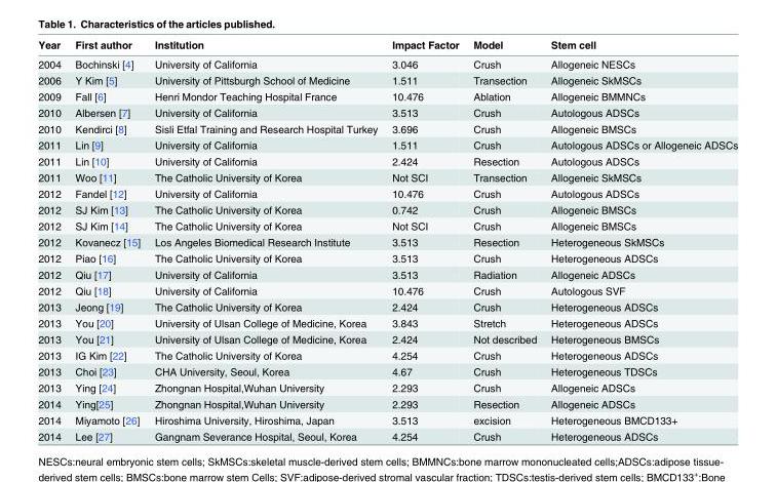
<table><thead><tr><td>Year</td><td>First author</td><td>Institution</td><td>Impact Factor</td><td>Model</td><td>Stem cell</td></tr></thead><tbody><tr><td>2004</td><td>Bochinski [4]</td><td>University of California</td><td>3.046</td><td>Crush</td><td>Allogeneic NESCs</td></tr><tr><td>2006</td><td>Y Kim [5]</td><td>University of Pittsburgh School of Medicine</td><td>1.511</td><td>Transection</td><td>Allogeneic SkMSCs</td></tr><tr><td>2009</td><td>Fall [6]</td><td>Henri Mondor Teaching Hospital France</td><td>10.476</td><td>Ablation</td><td>Allogeneic BMMNCs</td></tr><tr><td>2010</td><td>Albersen [7]</td><td>University of California</td><td>3.513</td><td>Crush</td><td>Autologous ADSCs</td></tr><tr><td>2010</td><td>Kendirci [8]</td><td>Sisli Etfal Training and Research Hospital Turkey</td><td>3.696</td><td>Crush</td><td>Allogeneic BMSCs</td></tr><tr><td>2011</td><td>Lin [9]</td><td>University of California</td><td>1.511</td><td>Crush</td><td>Autologous ADSCs or Allogeneic ADSCs</td></tr><tr><td>2011</td><td>Lin [10]</td><td>University of California</td><td>2.424</td><td>Resection</td><td>Autologous ADSCs</td></tr><tr><td>2011</td><td>Woo [11]</td><td>The Catholic University of Korea</td><td>Not SCI</td><td>Transection</td><td>Allogeneic SkMSCs</td></tr><tr><td>2012</td><td>Fandel [12]</td><td>University of California</td><td>10.476</td><td>Crush</td><td>Autologous ADSCs</td></tr><tr><td>2012</td><td>SJ Kim [13]</td><td>The Catholic University of Korea</td><td>0.742</td><td>Crush</td><td>Allogeneic BMSCs</td></tr><tr><td>2012</td><td>SJ Kim [14]</td><td>The Catholic University of Korea</td><td>Not SCI</td><td>Crush</td><td>Allogeneic BMSCs</td></tr><tr><td>2012</td><td>Kovanecz [15]</td><td>Los Angeles Biomedical Research Institute</td><td>3.513</td><td>Resection</td><td>Heterogeneous SkMSCs</td></tr><tr><td>2012</td><td>Piao [16]</td><td>The Catholic University of Korea</td><td>3.513</td><td>Crush</td><td>Heterogeneous ADSCs</td></tr><tr><td>2012</td><td>Qiu [17]</td><td>University of California</td><td>3.513</td><td>Radiation</td><td>Allogeneic ADSCs</td></tr><tr><td>2012</td><td>Qiu [18]</td><td>University of California</td><td>10.476</td><td>Crush</td><td>Autologous SVF</td></tr><tr><td>2013</td><td>Jeong [19]</td><td>The Catholic University of Korea</td><td>2.424</td><td>Crush</td><td>Heterogeneous ADSCs</td></tr><tr><td>2013</td><td>You [20]</td><td>University of Ulsan College of Medicine, Korea</td><td>3.843</td><td>Stretch</td><td>Heterogeneous ADSCs</td></tr><tr><td>2013</td><td>You [21]</td><td>University of Ulsan College of Medicine, Korea</td><td>2.424</td><td>Not described</td><td>Heterogeneous BMSCs</td></tr><tr><td>2013</td><td>IG Kim [22]</td><td>The Catholic University of Korea</td><td>4.254</td><td>Crush</td><td>Heterogeneous ADSCs</td></tr><tr><td>2013</td><td>Choi [23]</td><td>CHA University, Seoul, Korea</td><td>4.67</td><td>Crush</td><td>Heterogeneous TDSCs</td></tr><tr><td>2013</td><td>Ying [24]</td><td>Zhongnan Hospital,Wuhan University</td><td>2.293</td><td>Crush</td><td>Allogeneic ADSCs</td></tr><tr><td>2014</td><td>Ying[25]</td><td>Zhongnan Hospital,Wuhan University</td><td>2.293</td><td>Resection</td><td>Allogeneic ADSCs</td></tr><tr><td>2014</td><td>Miyamoto [26]</td><td>Hiroshima University, Hiroshima, Japan</td><td>3.513</td><td>excision</td><td>Heterogeneous BMCD133+</td></tr><tr><td>2014</td><td>Lee [27]</td><td>Gangnam Severance Hospital, Seoul, Korea</td><td>4.254</td><td>Crush</td><td>Heterogeneous ADSCs</td></tr></tbody></table>